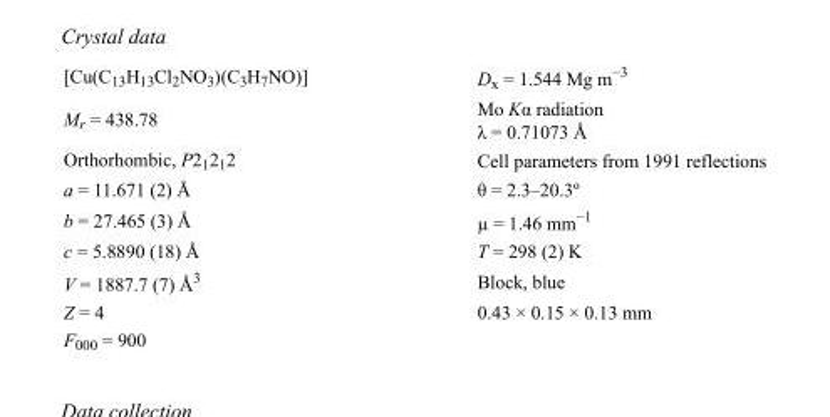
<table><tbody><tr><td>[Cu(C<sub>13</sub>H<sub>13</sub>Cl<sub>2</sub>NO<sub>3</sub>)(C<sub>3</sub>H<sub>7</sub>NO)]</td><td>D<sub>x</sub> = 1.544 Mg m<sup>−3</sup></td></tr><tr><td>M<sub>r</sub> = 438.78</td><td>Mo Kα radiation λ = 0.71073 Å</td></tr><tr><td>Orthorhombic, P2<sub>1</sub>2<sub>1</sub>2</td><td>Cell parameters from 1991 reflections</td></tr><tr><td>a = 11.671 (2) Å</td><td>θ = 2.3–20.3º</td></tr><tr><td>b = 27.465 (3) Å</td><td>µ = 1.46 mm<sup>−1</sup></td></tr><tr><td>c = 5.8890 (18) Å</td><td>T = 298 (2) K</td></tr><tr><td>V = 1887.7 (7) Å<sup>3</sup></td><td>Block, blue</td></tr><tr><td>Z = 4</td><td>0.43 × 0.15 × 0.13 mm</td></tr><tr><td>F<sub>000</sub> = 900</td><td></td></tr></tbody></table>